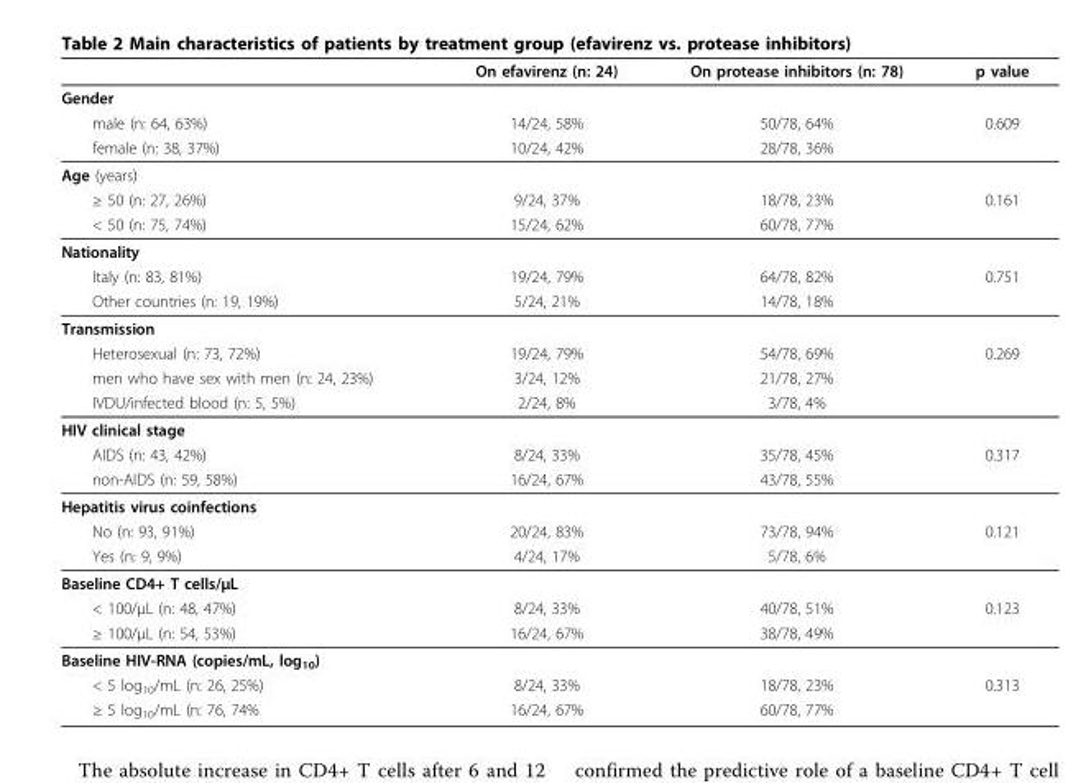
<table><thead><tr><td></td><td>On efavirenz (n: 24)</td><td>On protease inhibitors (n: 78)</td><td>p value</td></tr></thead><tbody><tr><td colspan="4">Gender</td></tr><tr><td>male (n: 64, 63%)</td><td>14/24, 58%</td><td>50/78, 64%</td><td>0.609</td></tr><tr><td>female (n: 38, 37%)</td><td>10/24, 42%</td><td>28/78, 36%</td><td></td></tr><tr><td colspan="4">Age (years)</td></tr><tr><td>≥ 50 (n: 27, 26%)</td><td>9/24, 37%</td><td>18/78, 23%</td><td>0.161</td></tr><tr><td>&lt; 50 (n: 75, 74%)</td><td>15/24, 62%</td><td>60/78, 77%</td><td></td></tr><tr><td colspan="4">Nationality</td></tr><tr><td>Italy (n: 83, 81%)</td><td>19/24, 79%</td><td>64/78, 82%</td><td>0.751</td></tr><tr><td>Other countries (n: 19, 19%)</td><td>5/24, 21%</td><td>14/78, 18%</td><td></td></tr><tr><td colspan="4">Transmission</td></tr><tr><td>Heterosexual (n: 73, 72%)</td><td>19/24, 79%</td><td>54/78, 69%</td><td>0.269</td></tr><tr><td>men who have sex with men (n: 24, 23%)</td><td>3/24, 12%</td><td>21/78, 27%</td><td></td></tr><tr><td>IVDU/infected blood (n: 5, 5%)</td><td>2/24, 8%</td><td>3/78, 4%</td><td></td></tr><tr><td colspan="4">HIV clinical stage</td></tr><tr><td>AIDS (n: 43, 42%)</td><td>8/24, 33%</td><td>35/78, 45%</td><td>0.317</td></tr><tr><td>non-AIDS (n: 59, 58%)</td><td>16/24, 67%</td><td>43/78, 55%</td><td></td></tr><tr><td colspan="4">Hepatitis virus coinfections</td></tr><tr><td>No (n: 93, 91%)</td><td>20/24, 83%</td><td>73/78, 94%</td><td>0.121</td></tr><tr><td>Yes (n: 9, 9%)</td><td>4/24, 17%</td><td>5/78, 6%</td><td></td></tr><tr><td colspan="4">Baseline CD4+ T cells/μL</td></tr><tr><td>&lt; 100/μL (n: 48, 47%)</td><td>8/24, 33%</td><td>40/78, 51%</td><td>0.123</td></tr><tr><td>≥ 100/μL (n: 54, 53%)</td><td>16/24, 67%</td><td>38/78, 49%</td><td></td></tr><tr><td colspan="4">Baseline HIV-RNA (copies/mL, log<sub>10</sub>)</td></tr><tr><td>&lt; 5 log<sub>10</sub>/mL (n: 26, 25%)</td><td>8/24, 33%</td><td>18/78, 23%</td><td>0.313</td></tr><tr><td>≥ 5 log<sub>10</sub>/mL (n: 76, 74%</td><td>16/24, 67%</td><td>60/78, 77%</td><td></td></tr></tbody></table>